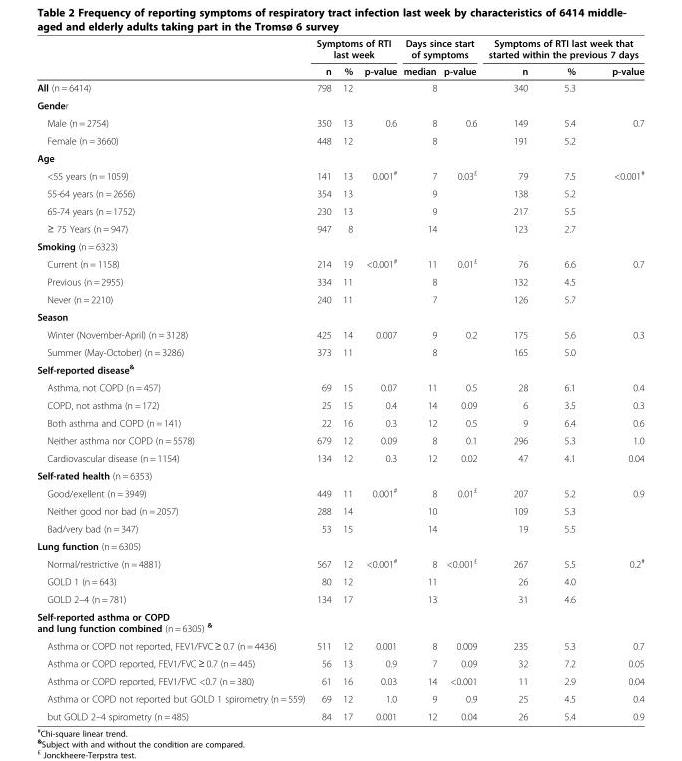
<table><thead><tr><td rowspan="2"></td><td colspan="3">Symptoms of RTI last week</td><td colspan="2">Days since start of symptoms</td><td colspan="3">Symptoms of RTI last week that started within the previous 7 days</td></tr><tr><td>n</td><td>%</td><td>p-value</td><td>median</td><td>p-value</td><td>n</td><td>%</td><td>p-value</td></tr></thead><tbody><tr><td>All (n = 6414)</td><td>798</td><td>12</td><td></td><td>8</td><td></td><td>340</td><td>5.3</td><td></td></tr><tr><td colspan="9">Gender</td></tr><tr><td>Male (n = 2754)</td><td>350</td><td>13</td><td>0.6</td><td>8</td><td>0.6</td><td>149</td><td>5.4</td><td>0.7</td></tr><tr><td>Female (n = 3660)</td><td>448</td><td>12</td><td></td><td>8</td><td></td><td>191</td><td>5.2</td><td></td></tr><tr><td colspan="9">Age</td></tr><tr><td>&lt;55 years (n = 1059)</td><td>141</td><td>13</td><td>0.001<sup>#</sup></td><td>7</td><td>0.03<sup>£</sup></td><td>79</td><td>7.5</td><td>&lt;0.001<sup>#</sup></td></tr><tr><td>55-64 years (n = 2656)</td><td>354</td><td>13</td><td></td><td>9</td><td></td><td>138</td><td>5.2</td><td></td></tr><tr><td>65-74 years (n = 1752)</td><td>230</td><td>13</td><td></td><td>9</td><td></td><td>217</td><td>5.5</td><td></td></tr><tr><td>≥ 75 Years (n = 947)</td><td>947</td><td>8</td><td></td><td>14</td><td></td><td>123</td><td>2.7</td><td></td></tr><tr><td colspan="9">Smoking (n = 6323)</td></tr><tr><td>Current (n = 1158)</td><td>214</td><td>19</td><td>&lt;0.001<sup>#</sup></td><td>11</td><td>0.01<sup>£</sup></td><td>76</td><td>6.6</td><td>0.7</td></tr><tr><td>Previous (n = 2955)</td><td>334</td><td>11</td><td></td><td>8</td><td></td><td>132</td><td>4.5</td><td></td></tr><tr><td>Never (n = 2210)</td><td>240</td><td>11</td><td></td><td>7</td><td></td><td>126</td><td>5.7</td><td></td></tr><tr><td colspan="9">Season</td></tr><tr><td>Winter (November-April) (n = 3128)</td><td>425</td><td>14</td><td>0.007</td><td>9</td><td>0.2</td><td>175</td><td>5.6</td><td>0.3</td></tr><tr><td>Summer (May-October) (n = 3286)</td><td>373</td><td>11</td><td></td><td>8</td><td></td><td>165</td><td>5.0</td><td></td></tr><tr><td colspan="9">Self-reported disease<sup>&amp;</sup></td></tr><tr><td>Asthma, not COPD (n = 457)</td><td>69</td><td>15</td><td>0.07</td><td>11</td><td>0.5</td><td>28</td><td>6.1</td><td>0.4</td></tr><tr><td>COPD, not asthma (n = 172)</td><td>25</td><td>15</td><td>0.4</td><td>14</td><td>0.09</td><td>6</td><td>3.5</td><td>0.3</td></tr><tr><td>Both asthma and COPD (n = 141)</td><td>22</td><td>16</td><td>0.3</td><td>12</td><td>0.5</td><td>9</td><td>6.4</td><td>0.6</td></tr><tr><td>Neither asthma nor COPD (n = 5578)</td><td>679</td><td>12</td><td>0.09</td><td>8</td><td>0.1</td><td>296</td><td>5.3</td><td>1.0</td></tr><tr><td>Cardiovascular disease (n = 1154)</td><td>134</td><td>12</td><td>0.3</td><td>12</td><td>0.02</td><td>47</td><td>4.1</td><td>0.04</td></tr><tr><td colspan="9">Self-rated health (n = 6353)</td></tr><tr><td>Good/exellent (n = 3949)</td><td>449</td><td>11</td><td>0.001<sup>#</sup></td><td>8</td><td>0.01<sup>£</sup></td><td>207</td><td>5.2</td><td>0.9</td></tr><tr><td>Neither good nor bad (n = 2057)</td><td>288</td><td>14</td><td></td><td>10</td><td></td><td>109</td><td>5.3</td><td></td></tr><tr><td>Bad/very bad (n = 347)</td><td>53</td><td>15</td><td></td><td>14</td><td></td><td>19</td><td>5.5</td><td></td></tr><tr><td colspan="9">Lung function (n = 6305)</td></tr><tr><td>Normal/restrictive (n = 4881)</td><td>567</td><td>12</td><td>&lt;0.001<sup>#</sup></td><td>8</td><td>&lt;0.001<sup>£</sup></td><td>267</td><td>5.5</td><td>0.2<sup>#</sup></td></tr><tr><td>GOLD 1 (n = 643)</td><td>80</td><td>12</td><td></td><td>11</td><td></td><td>26</td><td>4.0</td><td></td></tr><tr><td>GOLD 2–4 (n = 781)</td><td>134</td><td>17</td><td></td><td>13</td><td></td><td>31</td><td>4.6</td><td></td></tr><tr><td colspan="9">Self-reported asthma or COPD and lung function combined (n = 6305) <sup>&amp;</sup></td></tr><tr><td>Asthma or COPD not reported, FEV1/FVC ≥ 0.7 (n = 4436)</td><td>511</td><td>12</td><td>0.001</td><td>8</td><td>0.009</td><td>235</td><td>5.3</td><td>0.7</td></tr><tr><td>Asthma or COPD reported, FEV1/FVC ≥ 0.7 (n = 445)</td><td>56</td><td>13</td><td>0.9</td><td>7</td><td>0.09</td><td>32</td><td>7.2</td><td>0.05</td></tr><tr><td>Asthma or COPD reported, FEV1/FVC &lt;0.7 (n = 380)</td><td>61</td><td>16</td><td>0.03</td><td>14</td><td>&lt;0.001</td><td>11</td><td>2.9</td><td>0.04</td></tr><tr><td>Asthma or COPD not reported but GOLD 1 spirometry (n = 559)</td><td>69</td><td>12</td><td>1.0</td><td>9</td><td>0.9</td><td>25</td><td>4.5</td><td>0.4</td></tr><tr><td>but GOLD 2–4 spirometry (n = 485)</td><td>84</td><td>17</td><td>0.001</td><td>12</td><td>0.04</td><td>26</td><td>5.4</td><td>0.9</td></tr></tbody></table>